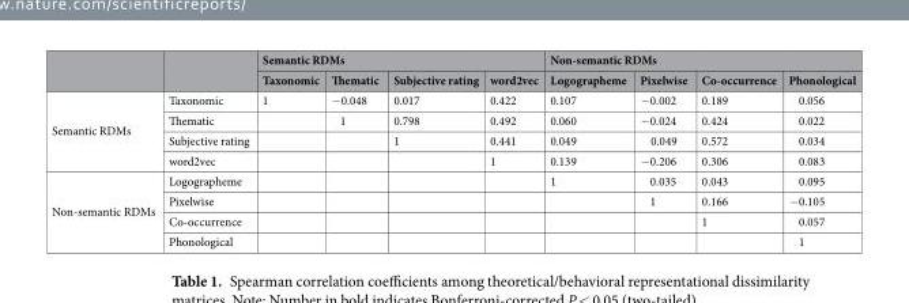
<table><thead><tr><td rowspan="2"></td><td rowspan="2"></td><td colspan="4">Semantic RDMs</td><td colspan="4">Non-semantic RDMs</td></tr><tr><td>Taxonomic</td><td>Thematic</td><td>Subjective rating</td><td>word2vec</td><td>Logographeme</td><td>Pixelwise</td><td>Co-occurrence</td><td>Phonological</td></tr></thead><tbody><tr><td rowspan="4">Semantic RDMs</td><td>Taxonomic</td><td>1</td><td>−0.048</td><td>0.017</td><td>0.422</td><td>0.107</td><td>−0.002</td><td>0.189</td><td>0.056</td></tr><tr><td>Thematic</td><td></td><td>1</td><td>0.798</td><td>0.492</td><td>0.060</td><td>−0.024</td><td>0.424</td><td>0.022</td></tr><tr><td>Subjective rating</td><td></td><td></td><td>1</td><td>0.441</td><td>0.049</td><td>0.049</td><td>0.572</td><td>0.034</td></tr><tr><td>word2vec</td><td></td><td></td><td></td><td>1</td><td>0.139</td><td>−0.206</td><td>0.306</td><td>0.083</td></tr><tr><td rowspan="4">Non-semantic RDMs</td><td>Logographeme</td><td></td><td></td><td></td><td></td><td>1</td><td>0.035</td><td>0.043</td><td>0.095</td></tr><tr><td>Pixelwise</td><td></td><td></td><td></td><td></td><td></td><td>1</td><td>0.166</td><td>−0.105</td></tr><tr><td>Co-occurrence</td><td></td><td></td><td></td><td></td><td></td><td></td><td>1</td><td>0.057</td></tr><tr><td>Phonological</td><td></td><td></td><td></td><td></td><td></td><td></td><td></td><td>1</td></tr></tbody></table>